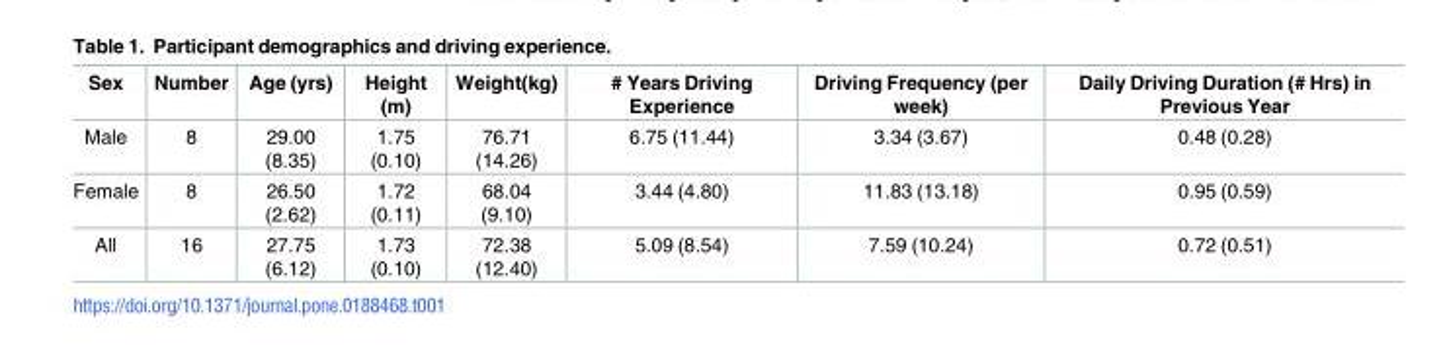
<table><thead><tr><td>Sex</td><td>Number</td><td>Age (yrs)</td><td>Height (m)</td><td>Weight(kg)</td><td># Years Driving Experience</td><td>Driving Frequency (per week)</td><td>Daily Driving Duration (# Hrs) in Previous Year</td></tr></thead><tbody><tr><td>Male</td><td>8</td><td>29.00 (8.35)</td><td>1.75 (0.10)</td><td>76.71 (14.26)</td><td>6.75 (11.44)</td><td>3.34 (3.67)</td><td>0.48 (0.28)</td></tr><tr><td>Female</td><td>8</td><td>26.50 (2.62)</td><td>1.72 (0.11)</td><td>68.04 (9.10)</td><td>3.44 (4.80)</td><td>11.83 (13.18)</td><td>0.95 (0.59)</td></tr><tr><td>All</td><td>16</td><td>27.75 (6.12)</td><td>1.73 (0.10)</td><td>72.38 (12.40)</td><td>5.09 (8.54)</td><td>7.59 (10.24)</td><td>0.72 (0.51)</td></tr></tbody></table>